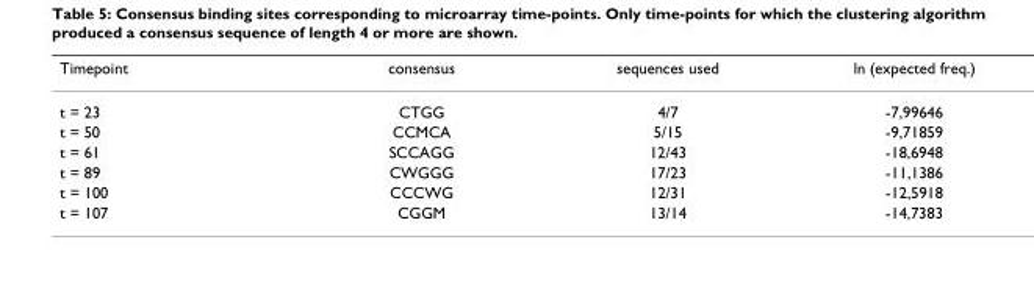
<table><thead><tr><td>Timepoint</td><td>consensus</td><td>sequences used</td><td>ln (expected freq.)</td></tr></thead><tbody><tr><td>t = 23</td><td>CTGG</td><td>4/7</td><td>-7,99646</td></tr><tr><td>t = 50</td><td>CCMCA</td><td>5/15</td><td>-9,71859</td></tr><tr><td>t = 61</td><td>SCCAGG</td><td>12/43</td><td>-18,6948</td></tr><tr><td>t = 89</td><td>CWGGG</td><td>17/23</td><td>-11,1386</td></tr><tr><td>t = 100</td><td>CCCWG</td><td>12/31</td><td>-12,5918</td></tr><tr><td>t = 107</td><td>CGGM</td><td>13/14</td><td>-14,7383</td></tr></tbody></table>